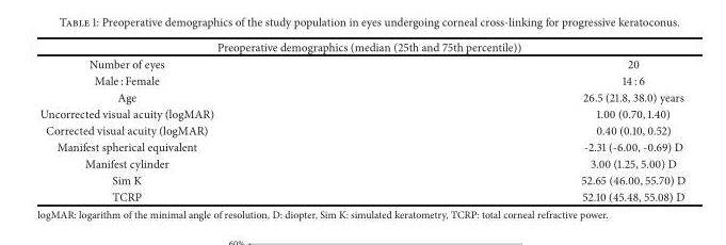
<table><thead><tr><td colspan="2">Preoperative demographics (median (25th and 75th percentile))</td></tr><tr><td>Number of eyes</td><td>20</td></tr></thead><tbody><tr><td>Male : Female</td><td>14 : 6</td></tr><tr><td>Age</td><td>26.5 (21.8, 38.0) years</td></tr><tr><td>Uncorrected visual acuity (logMAR)</td><td>1.00 (0.70, 1.40)</td></tr><tr><td>Corrected visual acuity (logMAR)</td><td>0.40 (0.10, 0.52)</td></tr><tr><td>Manifest spherical equivalent</td><td>-2.31 (-6.00, -0.69) D</td></tr><tr><td>Manifest cylinder</td><td>3.00 (1.25, 5.00) D</td></tr><tr><td>Sim K</td><td>52.65 (46.00, 55.70) D</td></tr><tr><td>TCRP</td><td>52.10 (45.48, 55.08) D</td></tr></tbody></table>